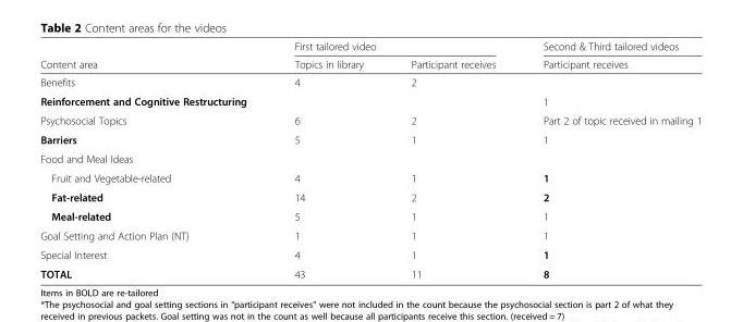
<table><thead><tr><td rowspan="2">Content area</td><td colspan="2">First tailored video</td><td rowspan="2">Second &amp; Third tailored videos Participant receives</td></tr><tr><td>Topics in library</td><td>Participant receives</td></tr></thead><tbody><tr><td>Benefits</td><td>4</td><td>2</td><td></td></tr><tr><td>Reinforcement and Cognitive Restructuring</td><td></td><td></td><td>1</td></tr><tr><td>Psychosocial Topics</td><td>6</td><td>2</td><td>Part 2 of topic received in mailing 1</td></tr><tr><td>Barriers</td><td>5</td><td>1</td><td>1</td></tr><tr><td colspan="4">Food and Meal Ideas</td></tr><tr><td>Fruit and Vegetable-related</td><td>4</td><td>1</td><td>1</td></tr><tr><td>Fat-related</td><td>14</td><td>2</td><td>2</td></tr><tr><td>Meal-related</td><td>5</td><td>1</td><td>1</td></tr><tr><td>Goal Setting and Action Plan (NT)</td><td>1</td><td>1</td><td>1</td></tr><tr><td>Special Interest</td><td>4</td><td>1</td><td>1</td></tr><tr><td>TOTAL</td><td>43</td><td>11</td><td>8</td></tr></tbody></table>